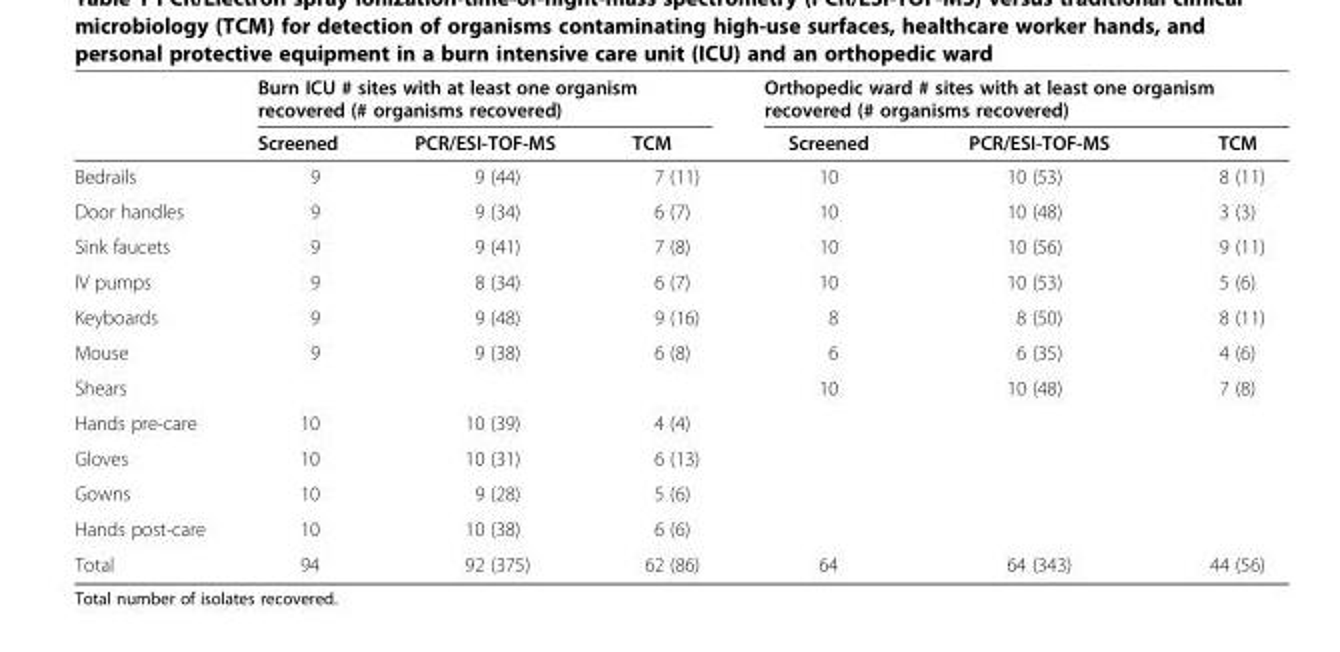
<table><thead><tr><td rowspan="2"></td><td colspan="3">Burn ICU # sites with at least one organism recovered (# organisms recovered)</td><td colspan="3">Orthopedic ward # sites with at least one organism recovered (# organisms recovered)</td></tr><tr><td>Screened</td><td>PCR/ESI-TOF-MS</td><td>TCM</td><td>Screened</td><td>PCR/ESI-TOF-MS</td><td>TCM</td></tr></thead><tbody><tr><td>Bedrails</td><td>9</td><td>9 (44)</td><td>7 (11)</td><td>10</td><td>10 (53)</td><td>8 (11)</td></tr><tr><td>Door handles</td><td>9</td><td>9 (34)</td><td>6 (7)</td><td>10</td><td>10 (48)</td><td>3 (3)</td></tr><tr><td>Sink faucets</td><td>9</td><td>9 (41)</td><td>7 (8)</td><td>10</td><td>10 (56)</td><td>9 (11)</td></tr><tr><td>IV pumps</td><td>9</td><td>8 (34)</td><td>6 (7)</td><td>10</td><td>10 (53)</td><td>5 (6)</td></tr><tr><td>Keyboards</td><td>9</td><td>9 (48)</td><td>9 (16)</td><td>8</td><td>8 (50)</td><td>8 (11)</td></tr><tr><td>Mouse</td><td>9</td><td>9 (38)</td><td>6 (8)</td><td>6</td><td>6 (35)</td><td>4 (6)</td></tr><tr><td>Shears</td><td></td><td></td><td></td><td>10</td><td>10 (48)</td><td>7 (8)</td></tr><tr><td>Hands pre-care</td><td>10</td><td>10 (39)</td><td>4 (4)</td><td></td><td></td><td></td></tr><tr><td>Gloves</td><td>10</td><td>10 (31)</td><td>6 (13)</td><td></td><td></td><td></td></tr><tr><td>Gowns</td><td>10</td><td>9 (28)</td><td>5 (6)</td><td></td><td></td><td></td></tr><tr><td>Hands post-care</td><td>10</td><td>10 (38)</td><td>6 (6)</td><td></td><td></td><td></td></tr><tr><td>Total</td><td>94</td><td>92 (375)</td><td>62 (86)</td><td>64</td><td>64 (343)</td><td>44 (56)</td></tr></tbody></table>